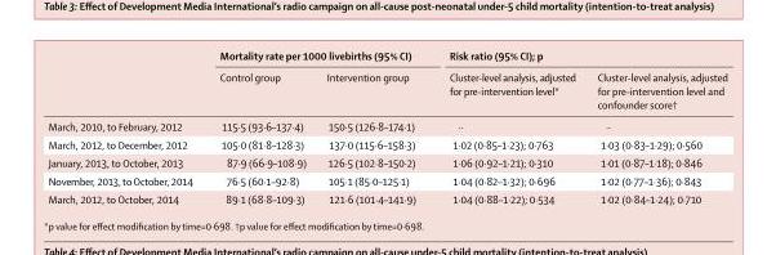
<table><thead><tr><td rowspan="2"></td><td colspan="2">Mortality rate per 1000 livebirths (95% CI)</td><td colspan="2">Risk ratio (95% CI); p</td></tr><tr><td>Control group</td><td>Intervention group</td><td>Cluster-level analysis, adjusted for pre-intervention level*</td><td>Cluster-level analysis, adjusted for pre-intervention level and confounder score†</td></tr></thead><tbody><tr><td>March, 2010, to February, 2012</td><td>115·5 (93·6–137·4)</td><td>150·5 (126·8–174·1)</td><td>··</td><td>··</td></tr><tr><td>March, 2012, to December, 2012</td><td>105·0 (81·8–128·3)</td><td>137·0 (115·6–158·3)</td><td>1·02 (0·85–1·23); 0·763</td><td>1·03 (0·83–1·29); 0·560</td></tr><tr><td>January, 2013, to October, 2013</td><td>87·9 (66·9–108·9)</td><td>126·5 (102·8–150·2)</td><td>1·06 (0·92–1·21); 0·310</td><td>1·01 (0·87–1·18); 0·846</td></tr><tr><td>November, 2013, to October, 2014</td><td>76·5 (60·1–92·8)</td><td>105·1 (85·0–125·1)</td><td>1·04 (0·82–1·32); 0·696</td><td>1·02 (0·77–1·36); 0·843</td></tr><tr><td>March, 2012, to October, 2014</td><td>89·1 (68·8–109·3)</td><td>121·6 (101·4–141·9)</td><td>1·04 (0·88–1·22); 0·534</td><td>1·02 (0·84–1·24); 0·710</td></tr></tbody></table>